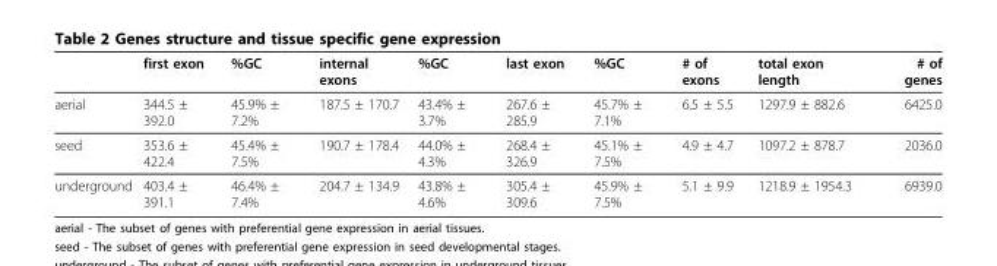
<table><thead><tr><td></td><td>first exon</td><td>%GC</td><td>internal exons</td><td>%GC</td><td>last exon</td><td>%GC</td><td># of exons</td><td>total exon length</td><td># of genes</td></tr></thead><tbody><tr><td>aerial</td><td>344.5 ± 392.0</td><td>45.9% ± 7.2%</td><td>187.5 ± 170.7</td><td>43.4% ± 3.7%</td><td>267.6 ± 285.9</td><td>45.7% ± 7.1%</td><td>6.5 ± 5.5</td><td>1297.9 ± 882.6</td><td>6425.0</td></tr><tr><td>seed</td><td>353.6 ± 422.4</td><td>45.4% ± 7.5%</td><td>190.7 ± 178.4</td><td>44.0% ± 4.3%</td><td>268.4 ± 326.9</td><td>45.1% ± 7.5%</td><td>4.9 ± 4.7</td><td>1097.2 ± 878.7</td><td>2036.0</td></tr><tr><td>underground</td><td>403.4 ± 391.1</td><td>46.4% ± 7.4%</td><td>204.7 ± 134.9</td><td>43.8% ± 4.6%</td><td>305.4 ± 309.6</td><td>45.9% ± 7.5%</td><td>5.1 ± 9.9</td><td>1218.9 ± 1954.3</td><td>6939.0</td></tr></tbody></table>